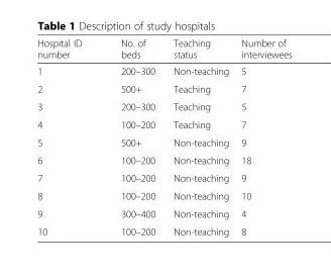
<table><thead><tr><td>Hospital ID number</td><td>No. of beds</td><td>Teaching status</td><td>Number of interviewees</td></tr></thead><tbody><tr><td>1</td><td>200–300</td><td>Non-teaching</td><td>5</td></tr><tr><td>2</td><td>500+</td><td>Teaching</td><td>7</td></tr><tr><td>3</td><td>200–300</td><td>Teaching</td><td>5</td></tr><tr><td>4</td><td>100–200</td><td>Teaching</td><td>7</td></tr><tr><td>5</td><td>500+</td><td>Non-teaching</td><td>9</td></tr><tr><td>6</td><td>100–200</td><td>Non-teaching</td><td>18</td></tr><tr><td>7</td><td>100–200</td><td>Non-teaching</td><td>9</td></tr><tr><td>8</td><td>100–200</td><td>Non-teaching</td><td>10</td></tr><tr><td>9</td><td>300–400</td><td>Non-teaching</td><td>4</td></tr><tr><td>10</td><td>100–200</td><td>Non-teaching</td><td>8</td></tr></tbody></table>